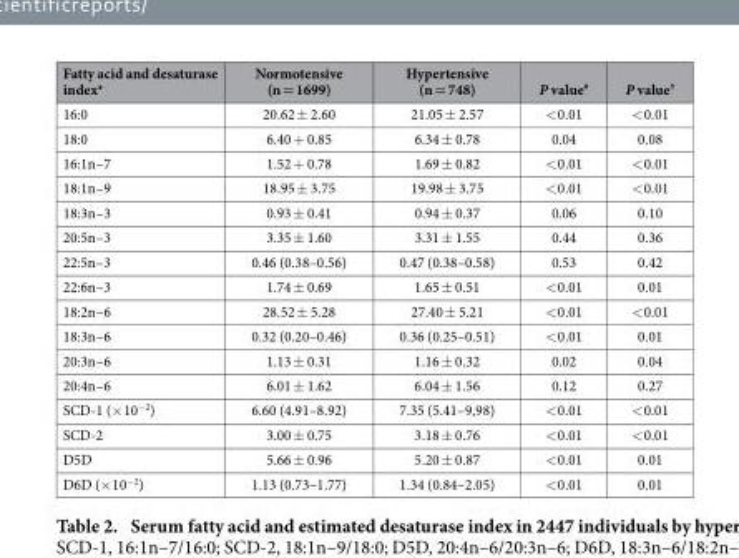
<table><thead><tr><td>Fatty acid and desaturase index*</td><td>Normotensive (n = 1699)</td><td>Hypertensive (n = 748)</td><td>P value#</td><td>P value†</td></tr></thead><tbody><tr><td>16:0</td><td>20.62 ± 2.60</td><td>21.05 ± 2.57</td><td>&lt; 0.01</td><td>&lt; 0.01</td></tr><tr><td>18:0</td><td>6.40 + 0.85</td><td>6.34 ± 0.78</td><td>0.04</td><td>0.08</td></tr><tr><td>16:1n–7</td><td>1.52 + 0.78</td><td>1.69 ± 0.82</td><td>&lt; 0.01</td><td>&lt; 0.01</td></tr><tr><td>18:1n–9</td><td>18.95 ± 3.75</td><td>19.98 ± 3.75</td><td>&lt; 0.01</td><td>&lt; 0.01</td></tr><tr><td>18:3n–3</td><td>0.93 ± 0.41</td><td>0.94 ± 0.37</td><td>0.06</td><td>0.10</td></tr><tr><td>20:5n–3</td><td>3.35 ± 1.60</td><td>3.31 ± 1.55</td><td>0.44</td><td>0.36</td></tr><tr><td>22:5n–3</td><td>0.46 (0.38–0.56)</td><td>0.47 (0.38–0.58)</td><td>0.53</td><td>0.42</td></tr><tr><td>22:6n–3</td><td>1.74 ± 0.69</td><td>1.65 ± 0.51</td><td>&lt; 0.01</td><td>0.01</td></tr><tr><td>18:2n–6</td><td>28.52 ± 5.28</td><td>27.40 ± 5.21</td><td>&lt; 0.01</td><td>&lt; 0.01</td></tr><tr><td>18:3n–6</td><td>0.32 (0.20–0.46)</td><td>0.36 (0.25–0.51)</td><td>&lt; 0.01</td><td>0.01</td></tr><tr><td>20:3n–6</td><td>1.13 ± 0.31</td><td>1.16 ± 0.32</td><td>0.02</td><td>0.04</td></tr><tr><td>20:4n–6</td><td>6.01 ± 1.62</td><td>6.04 ± 1.56</td><td>0.12</td><td>0.27</td></tr><tr><td>SCD-1 (× 10<sup>−2</sup>)</td><td>6.60 (4.91–8.92)</td><td>7.35 (5.41–9,98)</td><td>&lt; 0.01</td><td>&lt; 0.01</td></tr><tr><td>SCD-2</td><td>3.00 ± 0.75</td><td>3.18 ± 0.76</td><td>&lt; 0.01</td><td>&lt; 0.01</td></tr><tr><td>D5D</td><td>5.66 ± 0.96</td><td>5.20 ± 0.87</td><td>&lt; 0.01</td><td>0.01</td></tr><tr><td>D6D (× 10<sup>−2</sup>)</td><td>1.13 (0.73–1.77)</td><td>1.34 (0.84–2.05)</td><td>&lt; 0.01</td><td>0.01</td></tr></tbody></table>